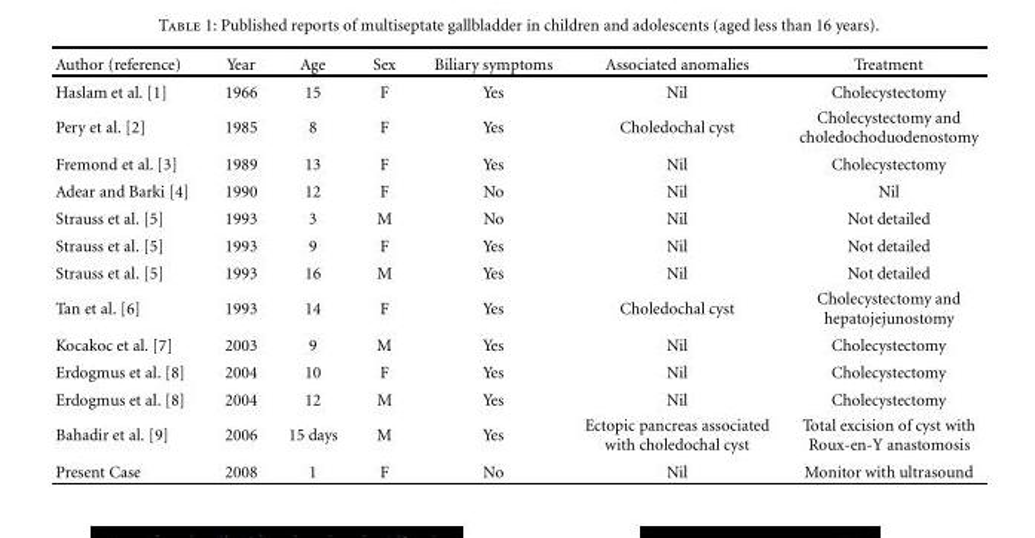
<table><thead><tr><td>Author (reference)</td><td>Year</td><td>Age</td><td>Sex</td><td>Biliary symptoms</td><td>Associated anomalies</td><td>Treatment</td></tr></thead><tbody><tr><td>Haslam et al. [1]</td><td>1966</td><td>15</td><td>F</td><td>Yes</td><td>Nil</td><td>Cholecystectomy</td></tr><tr><td>Pery et al. [2]</td><td>1985</td><td>8</td><td>F</td><td>Yes</td><td>Choledochal cyst</td><td>Cholecystectomy and choledochoduodenostomy</td></tr><tr><td>Fremond et al. [3]</td><td>1989</td><td>13</td><td>F</td><td>Yes</td><td>Nil</td><td>Cholecystectomy</td></tr><tr><td>Adear and Barki [4]</td><td>1990</td><td>12</td><td>F</td><td>No</td><td>Nil</td><td>Nil</td></tr><tr><td>Strauss et al. [5]</td><td>1993</td><td>3</td><td>M</td><td>No</td><td>Nil</td><td>Not detailed</td></tr><tr><td>Strauss et al. [5]</td><td>1993</td><td>9</td><td>F</td><td>Yes</td><td>Nil</td><td>Not detailed</td></tr><tr><td>Strauss et al. [5]</td><td>1993</td><td>16</td><td>M</td><td>Yes</td><td>Nil</td><td>Not detailed</td></tr><tr><td>Tan et al. [6]</td><td>1993</td><td>14</td><td>F</td><td>Yes</td><td>Choledochal cyst</td><td>Cholecystectomy and hepatojejunostomy</td></tr><tr><td>Kocakoc et al. [7]</td><td>2003</td><td>9</td><td>M</td><td>Yes</td><td>Nil</td><td>Cholecystectomy</td></tr><tr><td>Erdogmus et al. [8]</td><td>2004</td><td>10</td><td>F</td><td>Yes</td><td>Nil</td><td>Cholecystectomy</td></tr><tr><td>Erdogmus et al. [8]</td><td>2004</td><td>12</td><td>M</td><td>Yes</td><td>Nil</td><td>Cholecystectomy</td></tr><tr><td>Bahadir et al. [9]</td><td>2006</td><td>15 days</td><td>M</td><td>Yes</td><td>Ectopic pancreas associated with choledochal cyst</td><td>Total excision of cyst with Roux-en-Y anastomosis</td></tr><tr><td>Present Case</td><td>2008</td><td>1</td><td>F</td><td>No</td><td>Nil</td><td>Monitor with ultrasound</td></tr></tbody></table>